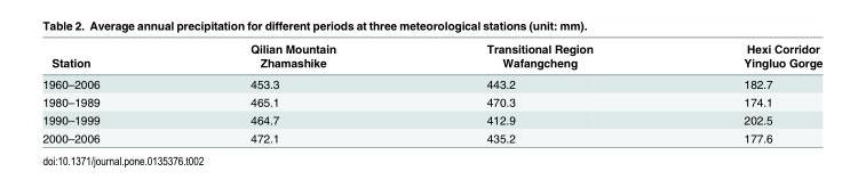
<table><thead><tr><td rowspan="2">Station</td><td rowspan="2">Qilian Mountain Zhamashike</td><td rowspan="2">Transitional Region Wafangcheng</td><td rowspan="2">Hexi Corridor Yingluo Gorge</td></tr><tr></tr></thead><tbody><tr><td>1960–2006</td><td>453.3</td><td>443.2</td><td>182.7</td></tr><tr><td>1980–1989</td><td>465.1</td><td>470.3</td><td>174.1</td></tr><tr><td>1990–1999</td><td>464.7</td><td>412.9</td><td>202.5</td></tr><tr><td>2000–2006</td><td>472.1</td><td>435.2</td><td>177.6</td></tr></tbody></table>